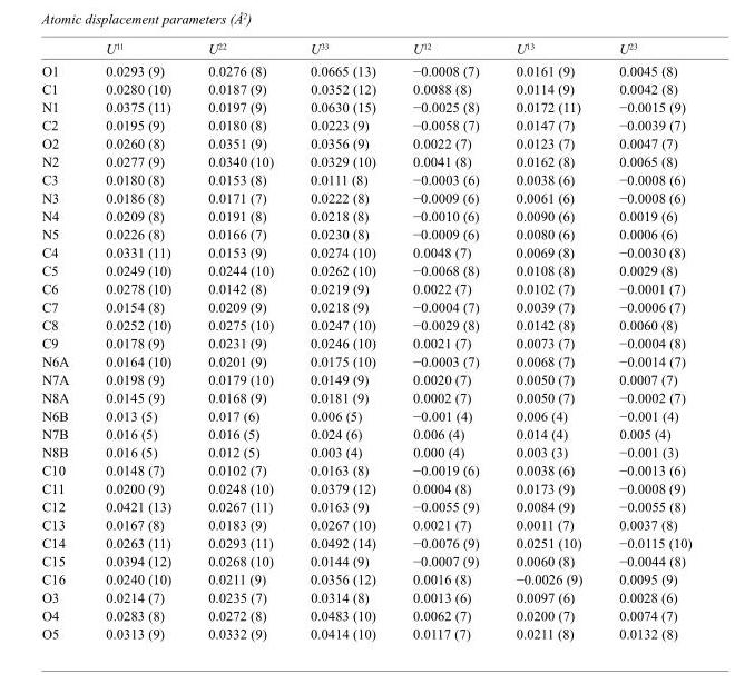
<table><thead><tr><td></td><td>U<sup>11</sup></td><td>U<sup>22</sup></td><td>U<sup>33</sup></td><td>U<sup>12</sup></td><td>U<sup>13</sup></td><td>U<sup>23</sup></td></tr></thead><tbody><tr><td>O1</td><td>0.0293 (9)</td><td>0.0276 (8)</td><td>0.0665 (13)</td><td>−0.0008 (7)</td><td>0.0161 (9)</td><td>0.0045 (8)</td></tr><tr><td>C1</td><td>0.0280 (10)</td><td>0.0187 (9)</td><td>0.0352 (12)</td><td>0.0088 (8)</td><td>0.0114 (9)</td><td>0.0042 (8)</td></tr><tr><td>N1</td><td>0.0375 (11)</td><td>0.0197 (9)</td><td>0.0630 (15)</td><td>−0.0025 (8)</td><td>0.0172 (11)</td><td>−0.0015 (9)</td></tr><tr><td>C2</td><td>0.0195 (9)</td><td>0.0180 (8)</td><td>0.0223 (9)</td><td>−0.0058 (7)</td><td>0.0147 (7)</td><td>−0.0039 (7)</td></tr><tr><td>O2</td><td>0.0260 (8)</td><td>0.0351 (9)</td><td>0.0356 (9)</td><td>0.0022 (7)</td><td>0.0123 (7)</td><td>0.0047 (7)</td></tr><tr><td>N2</td><td>0.0277 (9)</td><td>0.0340 (10)</td><td>0.0329 (10)</td><td>0.0041 (8)</td><td>0.0162 (8)</td><td>0.0065 (8)</td></tr><tr><td>C3</td><td>0.0180 (8)</td><td>0.0153 (8)</td><td>0.0111 (8)</td><td>−0.0003 (6)</td><td>0.0038 (6)</td><td>−0.0008 (6)</td></tr><tr><td>N3</td><td>0.0186 (8)</td><td>0.0171 (7)</td><td>0.0222 (8)</td><td>−0.0009 (6)</td><td>0.0061 (6)</td><td>−0.0008 (6)</td></tr><tr><td>N4</td><td>0.0209 (8)</td><td>0.0191 (8)</td><td>0.0218 (8)</td><td>−0.0010 (6)</td><td>0.0090 (6)</td><td>0.0019 (6)</td></tr><tr><td>N5</td><td>0.0226 (8)</td><td>0.0166 (7)</td><td>0.0230 (8)</td><td>−0.0009 (6)</td><td>0.0080 (6)</td><td>0.0006 (6)</td></tr><tr><td>C4</td><td>0.0331 (11)</td><td>0.0153 (9)</td><td>0.0274 (10)</td><td>0.0048 (7)</td><td>0.0069 (8)</td><td>−0.0030 (8)</td></tr><tr><td>C5</td><td>0.0249 (10)</td><td>0.0244 (10)</td><td>0.0262 (10)</td><td>−0.0068 (8)</td><td>0.0108 (8)</td><td>0.0029 (8)</td></tr><tr><td>C6</td><td>0.0278 (10)</td><td>0.0142 (8)</td><td>0.0219 (9)</td><td>0.0022 (7)</td><td>0.0102 (7)</td><td>−0.0001 (7)</td></tr><tr><td>C7</td><td>0.0154 (8)</td><td>0.0209 (9)</td><td>0.0218 (9)</td><td>−0.0004 (7)</td><td>0.0039 (7)</td><td>−0.0006 (7)</td></tr><tr><td>C8</td><td>0.0252 (10)</td><td>0.0275 (10)</td><td>0.0247 (10)</td><td>−0.0029 (8)</td><td>0.0142 (8)</td><td>0.0060 (8)</td></tr><tr><td>C9</td><td>0.0178 (9)</td><td>0.0231 (9)</td><td>0.0246 (10)</td><td>0.0021 (7)</td><td>0.0073 (7)</td><td>−0.0004 (8)</td></tr><tr><td>N6A</td><td>0.0164 (10)</td><td>0.0201 (9)</td><td>0.0175 (10)</td><td>−0.0003 (7)</td><td>0.0068 (7)</td><td>−0.0014 (7)</td></tr><tr><td>N7A</td><td>0.0198 (9)</td><td>0.0179 (10)</td><td>0.0149 (9)</td><td>0.0020 (7)</td><td>0.0050 (7)</td><td>0.0007 (7)</td></tr><tr><td>N8A</td><td>0.0145 (9)</td><td>0.0168 (9)</td><td>0.0181 (9)</td><td>0.0002 (7)</td><td>0.0050 (7)</td><td>−0.0002 (7)</td></tr><tr><td>N6B</td><td>0.013 (5)</td><td>0.017 (6)</td><td>0.006 (5)</td><td>−0.001 (4)</td><td>0.006 (4)</td><td>−0.001 (4)</td></tr><tr><td>N7B</td><td>0.016 (5)</td><td>0.016 (5)</td><td>0.024 (6)</td><td>0.006 (4)</td><td>0.014 (4)</td><td>0.005 (4)</td></tr><tr><td>N8B</td><td>0.016 (5)</td><td>0.012 (5)</td><td>0.003 (4)</td><td>0.000 (4)</td><td>0.003 (3)</td><td>−0.001 (3)</td></tr><tr><td>C10</td><td>0.0148 (7)</td><td>0.0102 (7)</td><td>0.0163 (8)</td><td>−0.0019 (6)</td><td>0.0038 (6)</td><td>−0.0013 (6)</td></tr><tr><td>C11</td><td>0.0200 (9)</td><td>0.0248 (10)</td><td>0.0379 (12)</td><td>0.0004 (8)</td><td>0.0173 (9)</td><td>−0.0008 (9)</td></tr><tr><td>C12</td><td>0.0421 (13)</td><td>0.0267 (11)</td><td>0.0163 (9)</td><td>−0.0055 (9)</td><td>0.0084 (9)</td><td>−0.0055 (8)</td></tr><tr><td>C13</td><td>0.0167 (8)</td><td>0.0183 (9)</td><td>0.0267 (10)</td><td>0.0021 (7)</td><td>0.0011 (7)</td><td>0.0037 (8)</td></tr><tr><td>C14</td><td>0.0263 (11)</td><td>0.0293 (11)</td><td>0.0492 (14)</td><td>−0.0076 (9)</td><td>0.0251 (10)</td><td>−0.0115 (10)</td></tr><tr><td>C15</td><td>0.0394 (12)</td><td>0.0268 (10)</td><td>0.0144 (9)</td><td>−0.0007 (9)</td><td>0.0060 (8)</td><td>−0.0044 (8)</td></tr><tr><td>C16</td><td>0.0240 (10)</td><td>0.0211 (9)</td><td>0.0356 (12)</td><td>0.0016 (8)</td><td>−0.0026 (9)</td><td>0.0095 (9)</td></tr><tr><td>O3</td><td>0.0214 (7)</td><td>0.0235 (7)</td><td>0.0314 (8)</td><td>0.0013 (6)</td><td>0.0097 (6)</td><td>0.0028 (6)</td></tr><tr><td>O4</td><td>0.0283 (8)</td><td>0.0272 (8)</td><td>0.0483 (10)</td><td>0.0062 (7)</td><td>0.0200 (7)</td><td>0.0074 (7)</td></tr><tr><td>O5</td><td>0.0313 (9)</td><td>0.0332 (9)</td><td>0.0414 (10)</td><td>0.0117 (7)</td><td>0.0211 (8)</td><td>0.0132 (8)</td></tr></tbody></table>